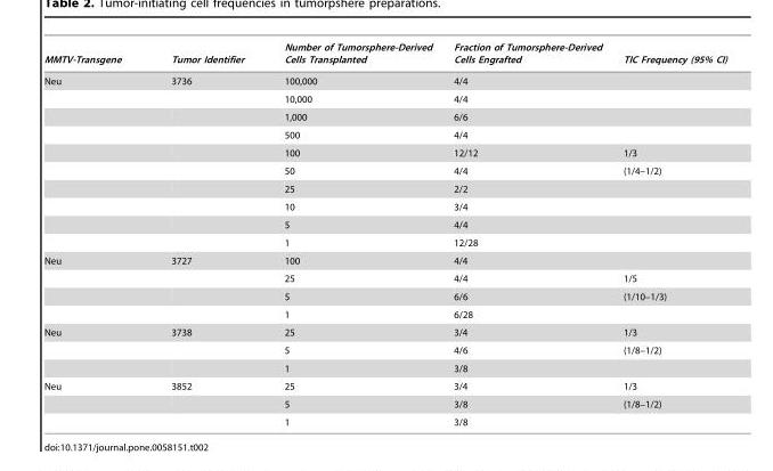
<table><thead><tr><td>MMTV-Transgene</td><td>Tumor Identifier</td><td>Number of Tumorsphere-Derived Cells Transplanted</td><td>Fraction of Tumorsphere-Derived Cells Engrafted</td><td>TIC Frequency (95% CI)</td></tr></thead><tbody><tr><td rowspan="10">Neu</td><td>3736</td><td>100,000</td><td>4/4</td><td></td></tr><tr><td></td><td>10,000</td><td>4/4</td><td></td></tr><tr><td></td><td>1,000</td><td>6/6</td><td></td></tr><tr><td></td><td>500</td><td>4/4</td><td></td></tr><tr><td></td><td>100</td><td>12/12</td><td>1/3</td></tr><tr><td></td><td>50</td><td>4/4</td><td>(1/4–1/2)</td></tr><tr><td></td><td>25</td><td>2/2</td><td></td></tr><tr><td></td><td>10</td><td>3/4</td><td></td></tr><tr><td></td><td>5</td><td>4/4</td><td></td></tr><tr><td></td><td>1</td><td>12/28</td><td></td></tr><tr><td rowspan="4">Neu</td><td>3727</td><td>100</td><td>4/4</td><td></td></tr><tr><td></td><td>25</td><td>4/4</td><td>1/5</td></tr><tr><td></td><td>5</td><td>6/6</td><td>(1/10–1/3)</td></tr><tr><td></td><td>1</td><td>6/28</td><td></td></tr><tr><td rowspan="3">Neu</td><td>3738</td><td>25</td><td>3/4</td><td>1/3</td></tr><tr><td></td><td>5</td><td>4/6</td><td>(1/8–1/2)</td></tr><tr><td></td><td>1</td><td>3/8</td><td></td></tr><tr><td rowspan="3">Neu</td><td>3852</td><td>25</td><td>3/4</td><td>1/3</td></tr><tr><td></td><td>5</td><td>3/8</td><td>(1/8–1/2)</td></tr><tr><td></td><td>1</td><td>3/8</td><td></td></tr></tbody></table>